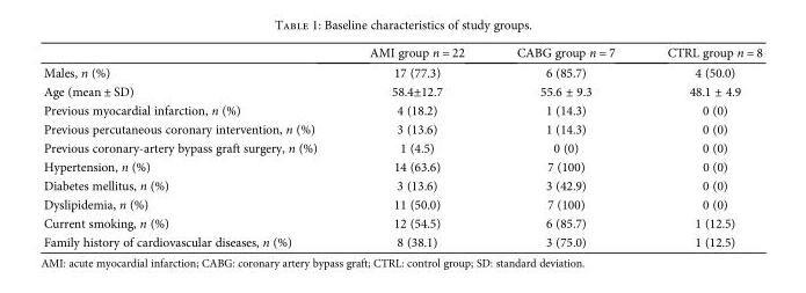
<table><thead><tr><td></td><td>AMI group n = 22</td><td>CABG group n = 7</td><td>CTRL group n = 8</td></tr></thead><tbody><tr><td>Males, n (%)</td><td>17 (77.3)</td><td>6 (85.7)</td><td>4 (50.0)</td></tr><tr><td>Age (mean ± SD)</td><td>58.4±12.7</td><td>55.6 ± 9.3</td><td>48.1 ± 4.9</td></tr><tr><td>Previous myocardial infarction, n (%)</td><td>4 (18.2)</td><td>1 (14.3)</td><td>0 (0)</td></tr><tr><td>Previous percutaneous coronary intervention, n (%)</td><td>3 (13.6)</td><td>1 (14.3)</td><td>0 (0)</td></tr><tr><td>Previous coronary-artery bypass graft surgery, n (%)</td><td>1 (4.5)</td><td>0 (0)</td><td>0 (0)</td></tr><tr><td>Hypertension, n (%)</td><td>14 (63.6)</td><td>7 (100)</td><td>0 (0)</td></tr><tr><td>Diabetes mellitus, n (%)</td><td>3 (13.6)</td><td>3 (42.9)</td><td>0 (0)</td></tr><tr><td>Dyslipidemia, n (%)</td><td>11 (50.0)</td><td>7 (100)</td><td>0 (0)</td></tr><tr><td>Current smoking, n (%)</td><td>12 (54.5)</td><td>6 (85.7)</td><td>1 (12.5)</td></tr><tr><td>Family history of cardiovascular diseases, n (%)</td><td>8 (38.1)</td><td>3 (75.0)</td><td>1 (12.5)</td></tr></tbody></table>